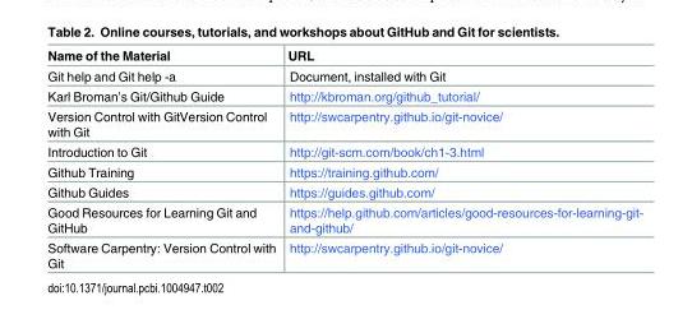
<table><thead><tr><td>Name of the Material</td><td>URL</td></tr></thead><tbody><tr><td>Git help and Git help -a</td><td>Document, installed with Git</td></tr><tr><td>Karl Broman’s Git/Github Guide</td><td>http://kbroman.org/github_tutorial/</td></tr><tr><td>Version Control with GitVersion Control with Git</td><td>http://swcarpentry.github.io/git-novice/</td></tr><tr><td>Introduction to Git</td><td>http://git-scm.com/book/ch1-3.html</td></tr><tr><td>Github Training</td><td>https://training.github.com/</td></tr><tr><td>Github Guides</td><td>https://guides.github.com/</td></tr><tr><td>Good Resources for Learning Git and GitHub</td><td>https://help.github.com/articles/good-resources-for-learning-git- and-github/</td></tr><tr><td>Software Carpentry: Version Control with Git</td><td>http://swcarpentry.github.io/git-novice/</td></tr></tbody></table>